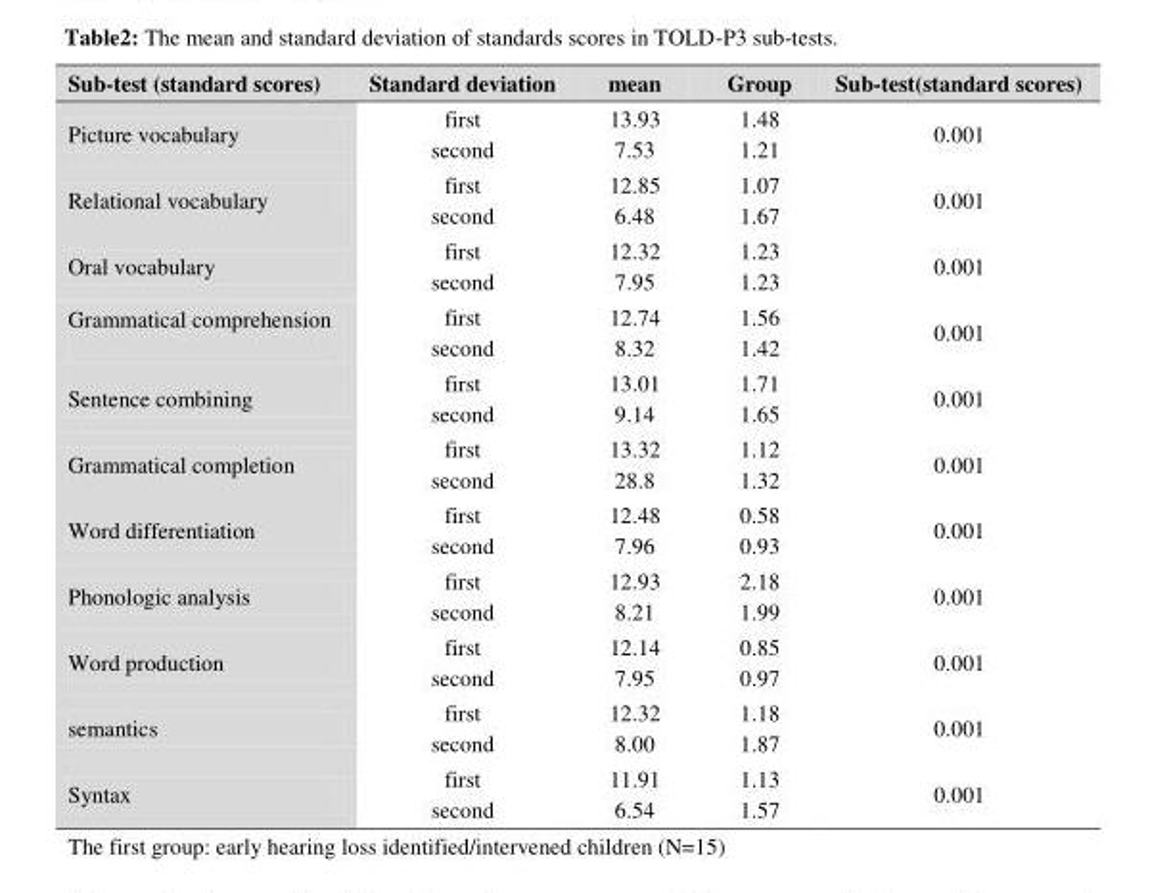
<table><thead><tr><td>Sub-test (standard scores)</td><td>Standard deviation</td><td>mean</td><td>Group</td><td>Sub-test(standard scores)</td></tr></thead><tbody><tr><td>Picture vocabulary</td><td>first second</td><td>13.93 7.53</td><td>1.48 1.21</td><td>0.001</td></tr><tr><td>Relational vocabulary</td><td>first second</td><td>12.85 6.48</td><td>1.07 1.67</td><td>0.001</td></tr><tr><td>Oral vocabulary</td><td>first second</td><td>12.32 7.95</td><td>1.23 1.23</td><td>0.001</td></tr><tr><td>Grammatical comprehension</td><td>first second</td><td>12.74 8.32</td><td>1.56 1.42</td><td>0.001</td></tr><tr><td>Sentence combining</td><td>first second</td><td>13.01 9.14</td><td>1.71 1.65</td><td>0.001</td></tr><tr><td>Grammatical completion</td><td>first second</td><td>13.32 28.8</td><td>1.12 1.32</td><td>0.001</td></tr><tr><td>Word differentiation</td><td>first second</td><td>12.48 7.96</td><td>0.58 0.93</td><td>0.001</td></tr><tr><td>Phonologic analysis</td><td>first second</td><td>12.93 8.21</td><td>2.18 1.99</td><td>0.001</td></tr><tr><td>Word production</td><td>first second</td><td>12.14 7.95</td><td>0.85 0.97</td><td>0.001</td></tr><tr><td>semantics</td><td>first second</td><td>12.32 8.00</td><td>1.18 1.87</td><td>0.001</td></tr><tr><td>Syntax</td><td>first second</td><td>11.91 6.54</td><td>1.13 1.57</td><td>0.001</td></tr></tbody></table>